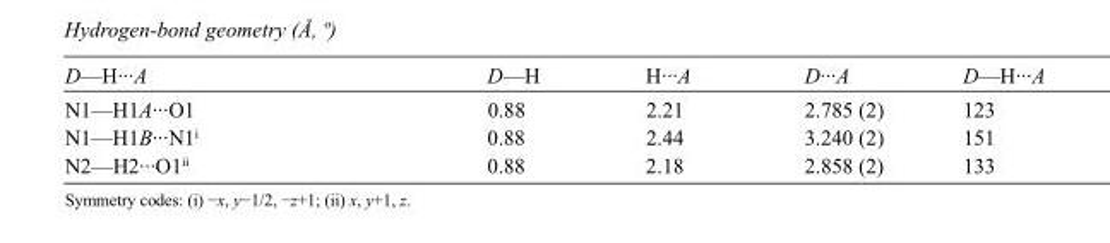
<table><tbody><tr><td>D—H···A</td><td>D—H</td><td>H···A</td><td>D···A</td><td>D—H···A</td></tr><tr><td>N1—H1A···O1</td><td>0.88</td><td>2.21</td><td>2.785 (2)</td><td>123</td></tr><tr><td>N1—H1B···N1<sup>i</sup></td><td>0.88</td><td>2.44</td><td>3.240 (2)</td><td>151</td></tr><tr><td>N2—H2···O1<sup>ii</sup></td><td>0.88</td><td>2.18</td><td>2.858 (2)</td><td>133</td></tr></tbody></table>